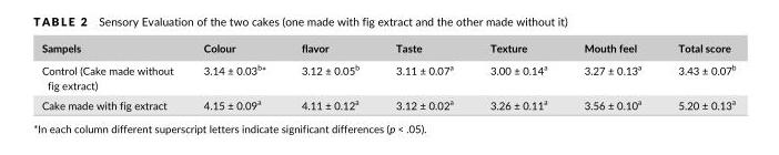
<table><thead><tr><td>Sampels</td><td>Colour</td><td>flavor</td><td>Taste</td><td>Texture</td><td>Mouth feel</td><td>Total score</td></tr></thead><tbody><tr><td>Control (Cake made without fig extract)</td><td>3.14 ± 0.03<sup>b</sup>*</td><td>3.12 ± 0.05<sup>b</sup></td><td>3.11 ± 0.07<sup>a</sup></td><td>3.00 ± 0.14<sup>a</sup></td><td>3.27 ± 0.13<sup>a</sup></td><td>3.43 ± 0.07<sup>b</sup></td></tr><tr><td>Cake made with fig extract</td><td>4.15 ± 0.09<sup>a</sup></td><td>4.11 ± 0.12<sup>a</sup></td><td>3.12 ± 0.02<sup>a</sup></td><td>3.26 ± 0.11<sup>a</sup></td><td>3.56 ± 0.10<sup>a</sup></td><td>5.20 ± 0.13<sup>a</sup></td></tr></tbody></table>